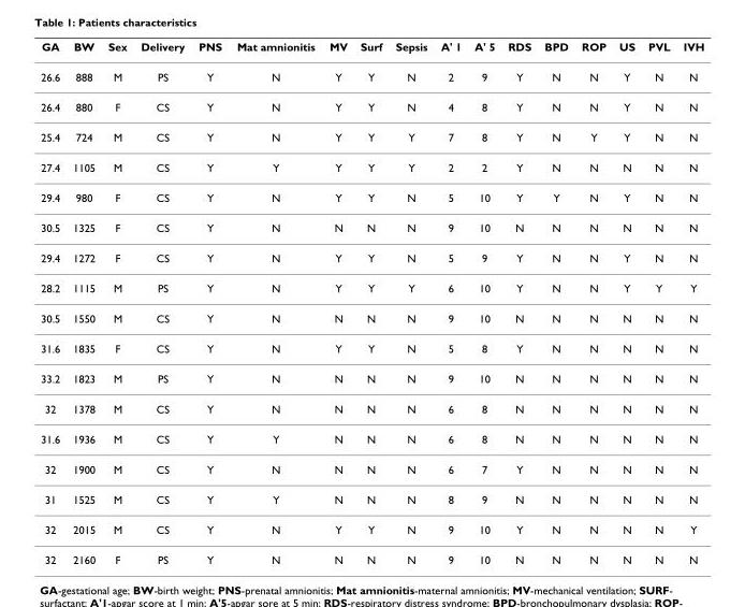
<table><thead><tr><td>GA</td><td>BW</td><td>Sex</td><td>Delivery</td><td>PNS</td><td>Mat amnionitis</td><td>MV</td><td>Surf</td><td>Sepsis</td><td>A&#x27; 1</td><td>A&#x27; 5</td><td>RDS</td><td>BPD</td><td>ROP</td><td>US</td><td>PVL</td><td>IVH</td></tr></thead><tbody><tr><td>26.6</td><td>888</td><td>M</td><td>PS</td><td>Y</td><td>N</td><td>Y</td><td>Y</td><td>N</td><td>2</td><td>9</td><td>Y</td><td>N</td><td>N</td><td>Y</td><td>N</td><td>N</td></tr><tr><td>26.4</td><td>880</td><td>F</td><td>CS</td><td>Y</td><td>N</td><td>Y</td><td>Y</td><td>N</td><td>4</td><td>8</td><td>Y</td><td>N</td><td>N</td><td>Y</td><td>N</td><td>N</td></tr><tr><td>25.4</td><td>724</td><td>M</td><td>CS</td><td>Y</td><td>N</td><td>Y</td><td>Y</td><td>Y</td><td>7</td><td>8</td><td>Y</td><td>N</td><td>Y</td><td>Y</td><td>N</td><td>N</td></tr><tr><td>27.4</td><td>1105</td><td>M</td><td>CS</td><td>Y</td><td>Y</td><td>Y</td><td>Y</td><td>Y</td><td>2</td><td>2</td><td>Y</td><td>N</td><td>N</td><td>N</td><td>N</td><td>N</td></tr><tr><td>29.4</td><td>980</td><td>F</td><td>CS</td><td>Y</td><td>N</td><td>Y</td><td>Y</td><td>N</td><td>5</td><td>10</td><td>Y</td><td>Y</td><td>N</td><td>Y</td><td>N</td><td>N</td></tr><tr><td>30.5</td><td>1325</td><td>F</td><td>CS</td><td>Y</td><td>N</td><td>N</td><td>N</td><td>N</td><td>9</td><td>10</td><td>N</td><td>N</td><td>N</td><td>N</td><td>N</td><td>N</td></tr><tr><td>29.4</td><td>1272</td><td>F</td><td>CS</td><td>Y</td><td>N</td><td>Y</td><td>Y</td><td>N</td><td>5</td><td>9</td><td>Y</td><td>N</td><td>N</td><td>Y</td><td>N</td><td>N</td></tr><tr><td>28.2</td><td>1115</td><td>M</td><td>PS</td><td>Y</td><td>N</td><td>Y</td><td>Y</td><td>Y</td><td>6</td><td>10</td><td>Y</td><td>N</td><td>N</td><td>Y</td><td>Y</td><td>Y</td></tr><tr><td>30.5</td><td>1550</td><td>M</td><td>CS</td><td>Y</td><td>N</td><td>N</td><td>N</td><td>N</td><td>9</td><td>10</td><td>N</td><td>N</td><td>N</td><td>N</td><td>N</td><td>N</td></tr><tr><td>31.6</td><td>1835</td><td>F</td><td>CS</td><td>Y</td><td>N</td><td>Y</td><td>Y</td><td>N</td><td>5</td><td>8</td><td>Y</td><td>N</td><td>N</td><td>N</td><td>N</td><td>N</td></tr><tr><td>33.2</td><td>1823</td><td>M</td><td>PS</td><td>Y</td><td>N</td><td>N</td><td>N</td><td>N</td><td>9</td><td>10</td><td>N</td><td>N</td><td>N</td><td>N</td><td>N</td><td>N</td></tr><tr><td>32</td><td>1378</td><td>M</td><td>CS</td><td>Y</td><td>N</td><td>N</td><td>N</td><td>N</td><td>6</td><td>8</td><td>N</td><td>N</td><td>N</td><td>N</td><td>N</td><td>N</td></tr><tr><td>31.6</td><td>1936</td><td>M</td><td>CS</td><td>Y</td><td>Y</td><td>N</td><td>N</td><td>N</td><td>6</td><td>8</td><td>N</td><td>N</td><td>N</td><td>N</td><td>N</td><td>N</td></tr><tr><td>32</td><td>1900</td><td>M</td><td>CS</td><td>Y</td><td>N</td><td>N</td><td>N</td><td>N</td><td>6</td><td>7</td><td>Y</td><td>N</td><td>N</td><td>N</td><td>N</td><td>N</td></tr><tr><td>31</td><td>1525</td><td>M</td><td>CS</td><td>Y</td><td>Y</td><td>N</td><td>N</td><td>N</td><td>8</td><td>9</td><td>N</td><td>N</td><td>N</td><td>N</td><td>N</td><td>N</td></tr><tr><td>32</td><td>2015</td><td>M</td><td>CS</td><td>Y</td><td>N</td><td>Y</td><td>Y</td><td>N</td><td>9</td><td>10</td><td>Y</td><td>N</td><td>N</td><td>N</td><td>N</td><td>Y</td></tr><tr><td>32</td><td>2160</td><td>F</td><td>PS</td><td>Y</td><td>N</td><td>N</td><td>N</td><td>N</td><td>9</td><td>10</td><td>N</td><td>N</td><td>N</td><td>N</td><td>N</td><td>N</td></tr></tbody></table>